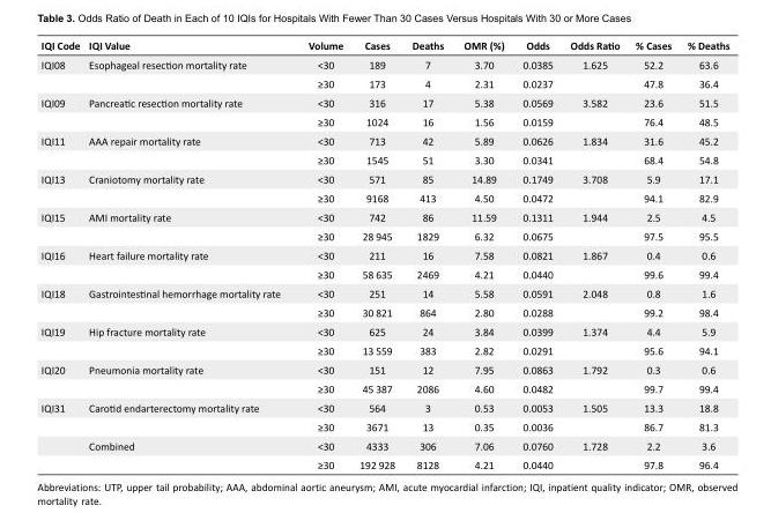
<table><tbody><tr><td>IQI Code</td><td>IQI Value</td><td>Volume</td><td>Cases</td><td>Deaths</td><td>OMR (%)</td><td>Odds</td><td>Odds Ratio</td><td>% Cases</td><td>% Deaths</td></tr><tr><td rowspan="2">IQI08</td><td>Esophageal resection mortality rate</td><td>&lt;30</td><td>189</td><td>7</td><td>3.70</td><td>0.0385</td><td>1.625</td><td>52.2</td><td>63.6</td></tr><tr><td></td><td>≥30</td><td>173</td><td>4</td><td>2.31</td><td>0.0237</td><td></td><td>47.8</td><td>36.4</td></tr><tr><td rowspan="2">IQI09</td><td>Pancreatic resection mortality rate</td><td>&lt;30</td><td>316</td><td>17</td><td>5.38</td><td>0.0569</td><td>3.582</td><td>23.6</td><td>51.5</td></tr><tr><td></td><td>≥30</td><td>1024</td><td>16</td><td>1.56</td><td>0.0159</td><td></td><td>76.4</td><td>48.5</td></tr><tr><td rowspan="2">IQI11</td><td>AAA repair mortality rate</td><td>&lt;30</td><td>713</td><td>42</td><td>5.89</td><td>0.0626</td><td>1.834</td><td>31.6</td><td>45.2</td></tr><tr><td></td><td>≥30</td><td>1545</td><td>51</td><td>3.30</td><td>0.0341</td><td></td><td>68.4</td><td>54.8</td></tr><tr><td rowspan="2">IQI13</td><td>Craniotomy mortality rate</td><td>&lt;30</td><td>571</td><td>85</td><td>14.89</td><td>0.1749</td><td>3.708</td><td>5.9</td><td>17.1</td></tr><tr><td></td><td>≥30</td><td>9168</td><td>413</td><td>4.50</td><td>0.0472</td><td></td><td>94.1</td><td>82.9</td></tr><tr><td rowspan="2">IQI15</td><td>AMI mortality rate</td><td>&lt;30</td><td>742</td><td>86</td><td>11.59</td><td>0.1311</td><td>1.944</td><td>2.5</td><td>4.5</td></tr><tr><td></td><td>≥30</td><td>28 945</td><td>1829</td><td>6.32</td><td>0.0675</td><td></td><td>97.5</td><td>95.5</td></tr><tr><td rowspan="2">IQI16</td><td>Heart failure mortality rate</td><td>&lt;30</td><td>211</td><td>16</td><td>7.58</td><td>0.0821</td><td>1.867</td><td>0.4</td><td>0.6</td></tr><tr><td></td><td>≥30</td><td>58 635</td><td>2469</td><td>4.21</td><td>0.0440</td><td></td><td>99.6</td><td>99.4</td></tr><tr><td rowspan="2">IQI18</td><td>Gastrointestinal hemorrhage mortality rate</td><td>&lt;30</td><td>251</td><td>14</td><td>5.58</td><td>0.0591</td><td>2.048</td><td>0.8</td><td>1.6</td></tr><tr><td></td><td>≥30</td><td>30 821</td><td>864</td><td>2.80</td><td>0.0288</td><td></td><td>99.2</td><td>98.4</td></tr><tr><td rowspan="2">IQI19</td><td>Hip fracture mortality rate</td><td>&lt;30</td><td>625</td><td>24</td><td>3.84</td><td>0.0399</td><td>1.374</td><td>4.4</td><td>5.9</td></tr><tr><td></td><td>≥30</td><td>13 559</td><td>383</td><td>2.82</td><td>0.0291</td><td></td><td>95.6</td><td>94.1</td></tr><tr><td rowspan="2">IQI20</td><td>Pneumonia mortality rate</td><td>&lt;30</td><td>151</td><td>12</td><td>7.95</td><td>0.0863</td><td>1.792</td><td>0.3</td><td>0.6</td></tr><tr><td></td><td>≥30</td><td>45 387</td><td>2086</td><td>4.60</td><td>0.0482</td><td></td><td>99.7</td><td>99.4</td></tr><tr><td rowspan="4">IQI31</td><td>Carotid endarterectomy mortality rate</td><td>&lt;30</td><td>564</td><td>3</td><td>0.53</td><td>0.0053</td><td>1.505</td><td>13.3</td><td>18.8</td></tr><tr><td></td><td>≥30</td><td>3671</td><td>13</td><td>0.35</td><td>0.0036</td><td></td><td>86.7</td><td>81.3</td></tr><tr><td>Combined</td><td>&lt;30</td><td>4333</td><td>306</td><td>7.06</td><td>0.0760</td><td>1.728</td><td>2.2</td><td>3.6</td></tr><tr><td></td><td>≥30</td><td>192 928</td><td>8128</td><td>4.21</td><td>0.0440</td><td></td><td>97.8</td><td>96.4</td></tr></tbody></table>